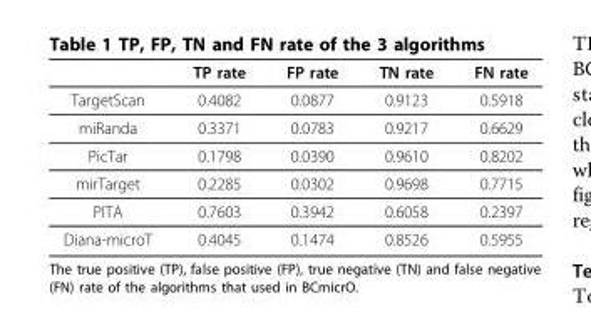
<table><thead><tr><td></td><td>TP rate</td><td>FP rate</td><td>TN rate</td><td>FN rate</td></tr></thead><tbody><tr><td>TargetScan</td><td>0.4082</td><td>0.0877</td><td>0.9123</td><td>0.5918</td></tr><tr><td>miRanda</td><td>0.3371</td><td>0.0783</td><td>0.9217</td><td>0.6629</td></tr><tr><td>PicTar</td><td>0.1798</td><td>0.0390</td><td>0.9610</td><td>0.8202</td></tr><tr><td>mirTarget</td><td>0.2285</td><td>0.0302</td><td>0.9698</td><td>0.7715</td></tr><tr><td>PITA</td><td>0.7603</td><td>0.3942</td><td>0.6058</td><td>0.2397</td></tr><tr><td>Diana-microT</td><td>0.4045</td><td>0.1474</td><td>0.8526</td><td>0.5955</td></tr></tbody></table>